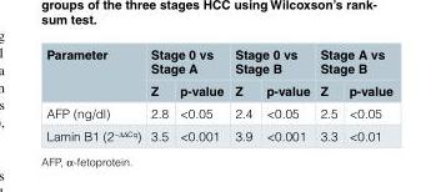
<table><thead><tr><td rowspan="2">Parameter</td><td colspan="2">Stage 0 vs Stage A</td><td colspan="2">Stage 0 vs Stage B</td><td colspan="2">Stage A vs Stage B</td></tr><tr><td>Z</td><td>p-value</td><td>Z</td><td>p-value</td><td>Z</td><td>p-value</td></tr></thead><tbody><tr><td>AFP (ng/dl)</td><td>2.8</td><td>&lt;0.05</td><td>2.4</td><td>&lt;0.05</td><td>2.5</td><td>&lt;0.05</td></tr><tr><td>Lamin B1 (2<sup>−ΔΔCq</sup>)</td><td>3.5</td><td>&lt;0.001</td><td>3.9</td><td>&lt;0.001</td><td>3.3</td><td>&lt;0.01</td></tr></tbody></table>